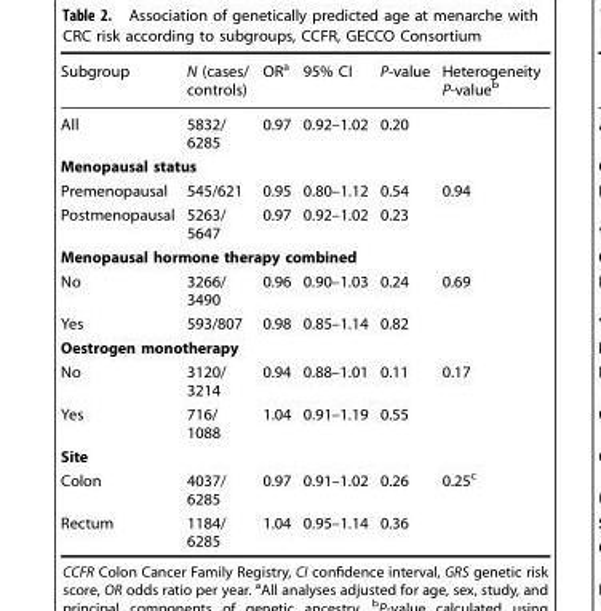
<table><thead><tr><td>Subgroup</td><td>N (cases/ controls)</td><td>OR<sup>a</sup></td><td>95% CI</td><td>P-value</td><td>Heterogeneity P-value<sup>b</sup></td></tr></thead><tbody><tr><td>All</td><td>5832/ 6285</td><td>0.97</td><td>0.92–1.02</td><td>0.20</td><td></td></tr><tr><td colspan="6">Menopausal status</td></tr><tr><td>Premenopausal</td><td>545/621</td><td>0.95</td><td>0.80–1.12</td><td>0.54</td><td>0.94</td></tr><tr><td>Postmenopausal</td><td>5263/ 5647</td><td>0.97</td><td>0.92–1.02</td><td>0.23</td><td></td></tr><tr><td colspan="6">Menopausal hormone therapy combined</td></tr><tr><td>No</td><td>3266/ 3490</td><td>0.96</td><td>0.90–1.03</td><td>0.24</td><td>0.69</td></tr><tr><td>Yes</td><td>593/807</td><td>0.98</td><td>0.85–1.14</td><td>0.82</td><td></td></tr><tr><td colspan="6">Oestrogen monotherapy</td></tr><tr><td>No</td><td>3120/ 3214</td><td>0.94</td><td>0.88–1.01</td><td>0.11</td><td>0.17</td></tr><tr><td>Yes</td><td>716/ 1088</td><td>1.04</td><td>0.91–1.19</td><td>0.55</td><td></td></tr><tr><td colspan="6">Site</td></tr><tr><td>Colon</td><td>4037/ 6285</td><td>0.97</td><td>0.91–1.02</td><td>0.26</td><td>0.25<sup>c</sup></td></tr><tr><td>Rectum</td><td>1184/ 6285</td><td>1.04</td><td>0.95–1.14</td><td>0.36</td><td></td></tr></tbody></table>